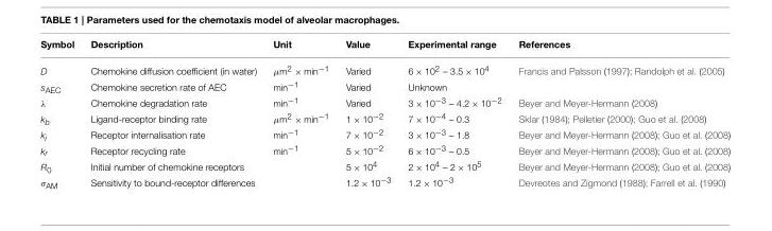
<table><thead><tr><td>Symbol</td><td>Description</td><td>Unit</td><td>Value</td><td>Experimental range</td><td>References</td></tr></thead><tbody><tr><td>D</td><td>Chemokine diffusion coefficient (in water)</td><td>µm<sup>2</sup> × min<sup>−1</sup></td><td>Varied</td><td>6 × 10<sup>2</sup> – 3.5 × 10<sup>4</sup></td><td>Francis and Palsson (1997); Randolph et al. (2005)</td></tr><tr><td>s<sub>AEC</sub></td><td>Chemokine secretion rate of AEC</td><td>min<sup>−1</sup></td><td>Varied</td><td>Unknown</td><td></td></tr><tr><td>λ</td><td>Chemokine degradation rate</td><td>min<sup>−1</sup></td><td>Varied</td><td>3 × 10<sup>−3</sup> – 4.2 × 10<sup>−2</sup></td><td>Beyer and Meyer-Hermann (2008)</td></tr><tr><td>k<sub>b</sub></td><td>Ligand-receptor binding rate</td><td>µm<sup>2</sup> × min<sup>−1</sup></td><td>1 × 10<sup>−2</sup></td><td>7 × 10<sup>−4</sup> – 0.3</td><td>Sklar (1984); Pelletier (2000); Guo et al. (2008)</td></tr><tr><td>k<sub>i</sub></td><td>Receptor internalisation rate</td><td>min<sup>−1</sup></td><td>7 × 10<sup>−2</sup></td><td>3 × 10<sup>−3</sup> – 1.8</td><td>Beyer and Meyer-Hermann (2008); Guo et al. (2008)</td></tr><tr><td>k<sub>r</sub></td><td>Receptor recycling rate</td><td>min<sup>−1</sup></td><td>5 × 10<sup>−2</sup></td><td>6 × 10<sup>−3</sup> – 0.5</td><td>Beyer and Meyer-Hermann (2008); Guo et al. (2008)</td></tr><tr><td>R<sub>0</sub></td><td>Initial number of chemokine receptors</td><td></td><td>5 × 10<sup>4</sup></td><td>2 × 10<sup>4</sup> – 2 × 10<sup>5</sup></td><td>Beyer and Meyer-Hermann (2008); Guo et al. (2008)</td></tr><tr><td>σ<sub>AM</sub></td><td>Sensitivity to bound-receptor differences</td><td></td><td>1.2 × 10<sup>−3</sup></td><td>1.2 × 10<sup>−3</sup></td><td>Devreotes and Zigmond (1988); Farrell et al. (1990)</td></tr></tbody></table>